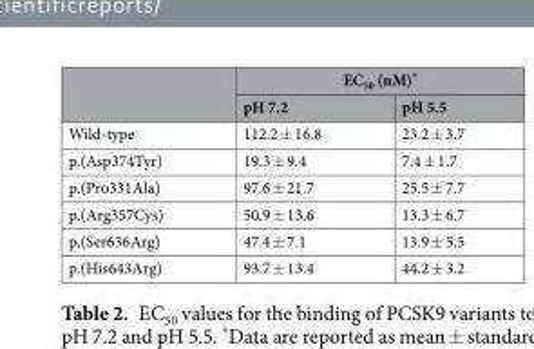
<table><thead><tr><td rowspan="2"></td><td colspan="2">EC<sub>50</sub> (nM)*</td></tr><tr><td>pH 7.2</td><td>pH 5.5</td></tr></thead><tbody><tr><td>Wild-type</td><td>112.2 ± 16.8</td><td>23.2 ± 3.7</td></tr><tr><td>p.(Asp374Tyr)</td><td>19.3 ± 9.4</td><td>7.4 ± 1.7</td></tr><tr><td>p.(Pro331Ala)</td><td>97.6 ± 21.7</td><td>25.5 ± 7.7</td></tr><tr><td>p.(Arg357Cys)</td><td>50.9 ± 13.6</td><td>13.3 ± 6.7</td></tr><tr><td>p.(Ser636Arg)</td><td>47.4 ± 7.1</td><td>13.9 ± 5.5</td></tr><tr><td>p.(His643Arg)</td><td>93.7 ± 13.4</td><td>44.2 ± 3.2</td></tr></tbody></table>